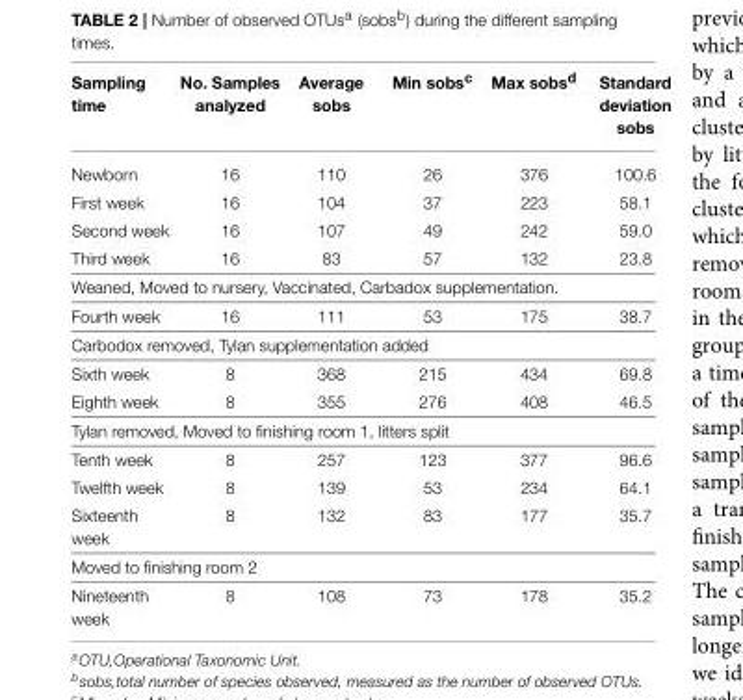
<table><thead><tr><td>Sampling time</td><td>No. Samples analyzed</td><td>Average sobs</td><td>Min sobs<sup>c</sup></td><td>Max sobs<sup>d</sup></td><td>Standard deviation sobs</td></tr></thead><tbody><tr><td>Newborn</td><td>16</td><td>110</td><td>26</td><td>376</td><td>100.6</td></tr><tr><td>First week</td><td>16</td><td>104</td><td>37</td><td>223</td><td>58.1</td></tr><tr><td>Second week</td><td>16</td><td>107</td><td>49</td><td>242</td><td>59.0</td></tr><tr><td>Third week</td><td>16</td><td>83</td><td>57</td><td>132</td><td>23.8</td></tr><tr><td colspan="6">Weaned, Moved to nursery, Vaccinated, Carbadox supplementation.</td></tr><tr><td>Fourth week</td><td>16</td><td>111</td><td>53</td><td>175</td><td>38.7</td></tr><tr><td colspan="6">Carbodox removed, Tylan supplementation added</td></tr><tr><td>Sixth week</td><td>8</td><td>368</td><td>215</td><td>434</td><td>69.8</td></tr><tr><td>Eighth week</td><td>8</td><td>355</td><td>276</td><td>408</td><td>46.5</td></tr><tr><td colspan="6">Tylan removed, Moved to finishing room 1, litters split</td></tr><tr><td>Tenth week</td><td>8</td><td>257</td><td>123</td><td>377</td><td>96.6</td></tr><tr><td>Twelfth week</td><td>8</td><td>139</td><td>53</td><td>234</td><td>64.1</td></tr><tr><td>Sixteenth week</td><td>8</td><td>132</td><td>83</td><td>177</td><td>35.7</td></tr><tr><td colspan="6">Moved to finishing room 2</td></tr><tr><td>Nineteenth week</td><td>8</td><td>108</td><td>73</td><td>178</td><td>35.2</td></tr></tbody></table>